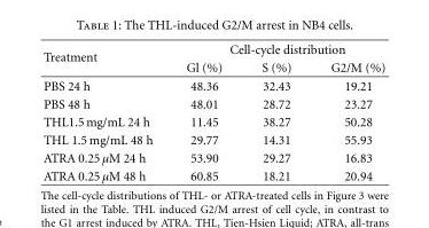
<table><thead><tr><td rowspan="2">Treatment</td><td colspan="3">Cell-cycle distribution</td></tr><tr><td>Gl (%)</td><td>S (%)</td><td>G2/M (%)</td></tr></thead><tbody><tr><td>PBS 24 h</td><td>48.36</td><td>32.43</td><td>19.21</td></tr><tr><td>PBS 48 h</td><td>48.01</td><td>28.72</td><td>23.27</td></tr><tr><td>THL1.5 mg/mL 24 h</td><td>11.45</td><td>38.27</td><td>50.28</td></tr><tr><td>THL 1.5 mg/mL 48 h</td><td>29.77</td><td>14.31</td><td>55.93</td></tr><tr><td>ATRA 0.25 μM 24 h</td><td>53.90</td><td>29.27</td><td>16.83</td></tr><tr><td>ATRA 0.25 μM 48 h</td><td>60.85</td><td>18.21</td><td>20.94</td></tr></tbody></table>